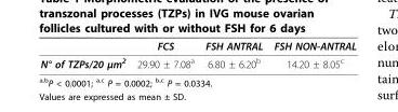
<table><thead><tr><td></td><td>FCS</td><td>FSH ANTRAL</td><td>FSH NON-ANTRAL</td></tr></thead><tbody><tr><td>N° of TZPs/20 μm<sup>2</sup></td><td>29.90 ± 7.08<sup>a</sup></td><td>6.80 ± 6.20<sup>b</sup></td><td>14.20 ± 8.05<sup>c</sup></td></tr></tbody></table>